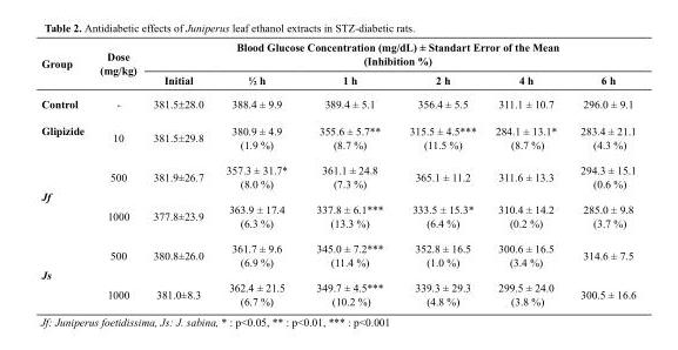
<table><thead><tr><td rowspan="2">Group</td><td rowspan="2">Dose (mg/kg)</td><td colspan="6">Blood Glucose Concentration (mg/dL) ± Standart Error of the Mean (Inhibition %)</td></tr><tr><td>Initial</td><td>½ h</td><td>1 h</td><td>2 h</td><td>4 h</td><td>6 h</td></tr></thead><tbody><tr><td>Control</td><td>-</td><td>381.5±28.0</td><td>388.4 ± 9.9</td><td>389.4 ± 5.1</td><td>356.4 ± 5.5</td><td>311.1 ± 10.7</td><td>296.0 ± 9.1</td></tr><tr><td>Glipizide</td><td>10</td><td>381.5±29.8</td><td>380.9 ± 4.9 (1.9 %)</td><td>355.6 ± 5.7** (8.7 %)</td><td>315.5 ± 4.5*** (11.5 %)</td><td>284.1 ± 13.1* (8.7 %)</td><td>283.4 ± 21.1 (4.3 %)</td></tr><tr><td rowspan="2">Jf</td><td>500</td><td>381.9±26.7</td><td>357.3 ± 31.7* (8.0 %)</td><td>361.1 ± 24.8 (7.3 %)</td><td>365.1 ± 11.2</td><td>311.6 ± 13.3</td><td>294.3 ± 15.1 (0.6 %)</td></tr><tr><td>1000</td><td>377.8±23.9</td><td>363.9 ± 17.4 (6.3 %)</td><td>337.8 ± 6.1*** (13.3 %)</td><td>333.5 ± 15.3* (6.4 %)</td><td>310.4 ± 14.2 (0.2 %)</td><td>285.0 ± 9.8 (3.7 %)</td></tr><tr><td rowspan="2">Js</td><td>500</td><td>380.8±26.0</td><td>361.7 ± 9.6 (6.9 %)</td><td>345.0 ± 7.2*** (11.4 %)</td><td>352.8 ± 16.5 (1.0 %)</td><td>300.6 ± 16.5 (3.4 %)</td><td>314.6 ± 7.5</td></tr><tr><td>1000</td><td>381.0±8.3</td><td>362.4 ± 21.5 (6.7 %)</td><td>349.7 ± 4.5*** (10.2 %)</td><td>339.3 ± 29.3 (4.8 %)</td><td>299.5 ± 24.0 (3.8 %)</td><td>300.5 ± 16.6</td></tr></tbody></table>